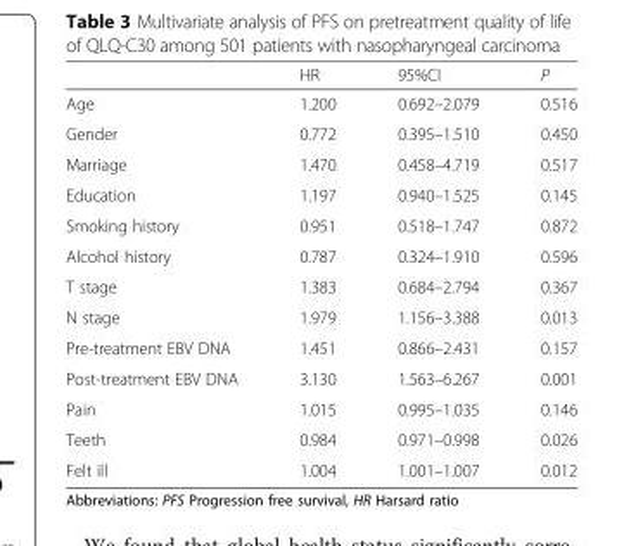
<table><thead><tr><td></td><td>HR</td><td>95%CI</td><td>P</td></tr></thead><tbody><tr><td>Age</td><td>1.200</td><td>0.692–2.079</td><td>0.516</td></tr><tr><td>Gender</td><td>0.772</td><td>0.395–1.510</td><td>0.450</td></tr><tr><td>Marriage</td><td>1.470</td><td>0.458–4.719</td><td>0.517</td></tr><tr><td>Education</td><td>1.197</td><td>0.940–1.525</td><td>0.145</td></tr><tr><td>Smoking history</td><td>0.951</td><td>0.518–1.747</td><td>0.872</td></tr><tr><td>Alcohol history</td><td>0.787</td><td>0.324–1.910</td><td>0.596</td></tr><tr><td>T stage</td><td>1.383</td><td>0.684–2.794</td><td>0.367</td></tr><tr><td>N stage</td><td>1.979</td><td>1.156–3.388</td><td>0.013</td></tr><tr><td>Pre-treatment EBV DNA</td><td>1.451</td><td>0.866–2.431</td><td>0.157</td></tr><tr><td>Post-treatment EBV DNA</td><td>3.130</td><td>1.563–6.267</td><td>0.001</td></tr><tr><td>Pain</td><td>1.015</td><td>0.995–1.035</td><td>0.146</td></tr><tr><td>Teeth</td><td>0.984</td><td>0.971–0.998</td><td>0.026</td></tr><tr><td>Felt ill</td><td>1.004</td><td>1.001–1.007</td><td>0.012</td></tr></tbody></table>